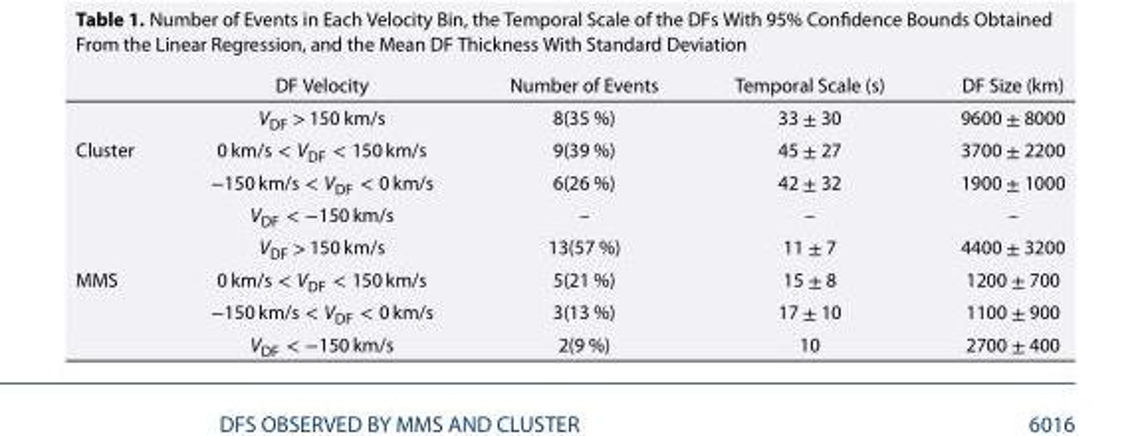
<table><thead><tr><td></td><td>DF Velocity</td><td>Number of Events</td><td>Temporal Scale (s)</td><td>DF Size (km)</td></tr></thead><tbody><tr><td></td><td>V<sub>DF</sub> &gt; 150 km/s</td><td>8(35 %)</td><td>33 ± 30</td><td>9600 ± 8000</td></tr><tr><td rowspan="4">Cluster</td><td>0 km/s &lt; V<sub>DF</sub> &lt; 150 km/s</td><td>9(39 %)</td><td>45 ± 27</td><td>3700 ± 2200</td></tr><tr><td>−150 km/s &lt; V<sub>DF</sub> &lt; 0 km/s</td><td>6(26 %)</td><td>42 ± 32</td><td>1900 ± 1000</td></tr><tr><td>V<sub>DF</sub> &lt; −150 km/s</td><td>–</td><td>–</td><td>–</td></tr><tr><td>V<sub>DF</sub> &gt; 150 km/s</td><td>13(57 %)</td><td>11 ± 7</td><td>4400 ± 3200</td></tr><tr><td rowspan="3">MMS</td><td>0 km/s &lt; V<sub>DF</sub> &lt; 150 km/s</td><td>5(21 %)</td><td>15 ± 8</td><td>1200 ± 700</td></tr><tr><td>−150 km/s &lt; V<sub>DF</sub> &lt; 0 km/s</td><td>3(13 %)</td><td>17 ± 10</td><td>1100 ± 900</td></tr><tr><td>V<sub>DF</sub> &lt; −150 km/s</td><td>2(9 %)</td><td>10</td><td>2700 ± 400</td></tr></tbody></table>